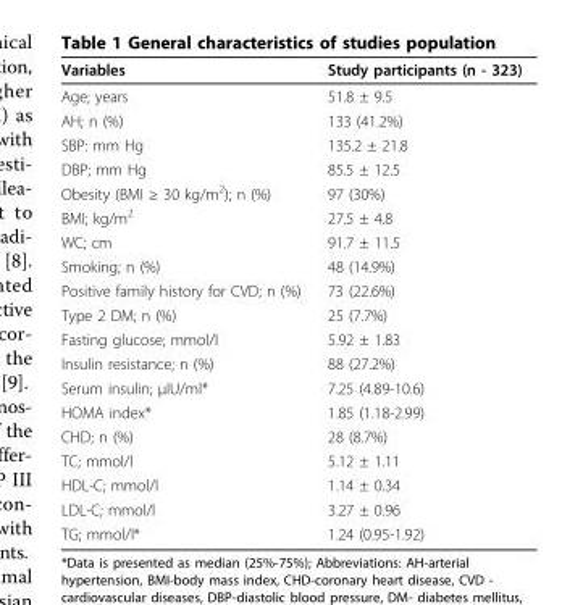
<table><thead><tr><td>Variables</td><td>Study participants (n - 323)</td></tr></thead><tbody><tr><td>Age; years</td><td>51.8 ± 9.5</td></tr><tr><td>AH; n (%)</td><td>133 (41.2%)</td></tr><tr><td>SBP: mm Hg</td><td>135.2 ± 21.8</td></tr><tr><td>DBP; mm Hg</td><td>85.5 ± 12.5</td></tr><tr><td>Obesity (BMI ≥ 30 kg/m<sup>2</sup>); n (%)</td><td>97 (30%)</td></tr><tr><td>BMI; kg/m<sup>2</sup></td><td>27.5 ± 4.8</td></tr><tr><td>WC; cm</td><td>91.7 ± 11.5</td></tr><tr><td>Smoking; n (%)</td><td>48 (14.9%)</td></tr><tr><td>Positive family history for CVD; n (%)</td><td>73 (22.6%)</td></tr><tr><td>Type 2 DM; n (%)</td><td>25 (7.7%)</td></tr><tr><td>Fasting glucose; mmol/l</td><td>5.92 ± 1.83</td></tr><tr><td>Insulin resistance; n (%)</td><td>88 (27.2%)</td></tr><tr><td>Serum insulin; μIU/ml*</td><td>7.25 (4.89-10.6)</td></tr><tr><td>HOMA index*</td><td>1.85 (1.18-2.99)</td></tr><tr><td>CHD; n (%)</td><td>28 (8.7%)</td></tr><tr><td>TC; mmol/l</td><td>5.12 ± 1.11</td></tr><tr><td>HDL-C; mmol/l</td><td>1.14 ± 0.34</td></tr><tr><td>LDL-C; mmol/l</td><td>3.27 ± 0.96</td></tr><tr><td>TG; mmol/l*</td><td>1.24 (0.95-1.92)</td></tr></tbody></table>